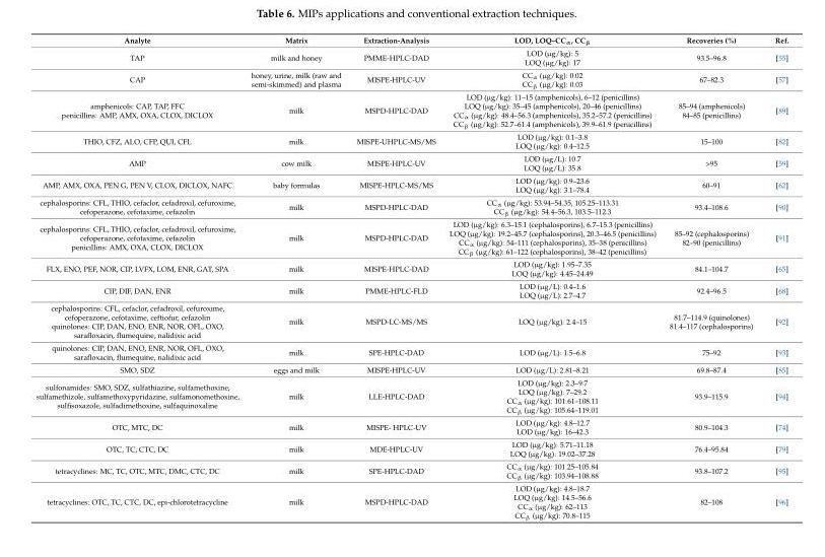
<table><thead><tr><td>Analyte</td><td>Matrix</td><td>Extraction-Analysis</td><td>LOD, LOQ–CC<sub>α</sub>, CC<sub>β</sub></td><td>Recoveries (%)</td><td>Ref.</td></tr></thead><tbody><tr><td>TAP</td><td>milk and honey</td><td>PMME-HPLC-DAD</td><td>LOD (µg/kg): 5 LOQ (µg/kg): 17</td><td>93.5–96.8</td><td>[55]</td></tr><tr><td>CAP</td><td>honey, urine, milk (raw and semi-skimmed) and plasma</td><td>MISPE-HPLC-UV</td><td>CC<sub>α</sub> (µg/kg): 0.02 CC<sub>β</sub> (µg/kg): 0.03</td><td>67–82.3</td><td>[57]</td></tr><tr><td>amphenicols: CAP, TAP, FFC penicillins: AMP, AMX, OXA, CLOX, DICLOX</td><td>milk</td><td>MSPD-HPLC-DAD</td><td>LOD (µg/kg): 11–15 (amphenicols), 6–12 (penicillins) LOQ (µg/kg): 35–45 (amphenicols), 20–46 (penicillins) CC<sub>α</sub> (µg/kg): 48.4–56.3 (amphenicols), 35.2–57.2 (penicillins) CC<sub>β</sub> (µg/kg): 52.7–61.4 (amphenicols), 39.9–61.9 (penicillins)</td><td>85–94 (amphenicols) 84–85 (penicillins)</td><td>[89]</td></tr><tr><td>THIO, CFZ, ALO, CFP, QUI, CFL</td><td>milk</td><td>MISPE-UHPLC-MS/MS</td><td>LOD (µg/kg): 0.1–3.8 LOQ (µg/kg): 0.4–12.5</td><td>15–100</td><td>[82]</td></tr><tr><td>AMP</td><td>cow milk</td><td>MISPE-HPLC-UV</td><td>LOD (µg/L): 10.7 LOQ (µg/L): 35.8</td><td>&gt;95</td><td>[59]</td></tr><tr><td>AMP, AMX, OXA, PEN G, PEN V, CLOX, DICLOX, NAFC</td><td>baby formulas</td><td>MISPE-HPLC-MS/MS</td><td>LOD (µg/kg): 0.9–23.6 LOQ (µg/kg): 3.1–78.4</td><td>60–91</td><td>[62]</td></tr><tr><td>cephalosporins: CFL, THIO, cefaclor, cefadroxil, cefuroxime, cefoperazone, cefotaxime, cefazolin</td><td>milk</td><td>MSPD-HPLC-DAD</td><td>CC<sub>α</sub> (µg/kg): 53.94–54.35, 105.25–113.31 CC<sub>β</sub> (µg/kg): 54.4–56.3, 103.5–112.3</td><td>93.4–108.6</td><td>[90]</td></tr><tr><td>cephalosporins: CFL, THIO, cefaclor, cefadroxil, cefuroxime, cefoperazone, cefotaxime, cefazolin penicillins: AMX, OXA, CLOX, DICLOX</td><td>milk</td><td>MSPD-HPLC-DAD</td><td>LOD (µg/kg): 6.3–15.1 (cephalosporins), 6.7–15.3 (penicillins) LOQ (µg/kg): 19.2–45.7 (cephalosporins), 20.3–46.5 (penicillins) CC<sub>α</sub> (µg/kg): 54–111 (cephalosporins), 35–38 (penicillins) CC<sub>β</sub> (µg/kg): 61–122 (cephalosporins), 38–42 (penicillins)</td><td>85–92 (cephalosporins) 82–90 (penicillins)</td><td>[91]</td></tr><tr><td>FLX, ENO, PEF, NOR, CIP, LVFX, LOM, ENR, GAT, SPA</td><td>milk</td><td>MISPE-HPLC-DAD</td><td>LOD (µg/kg): 1.95–7.35 LOQ (µg/kg): 4.45–24.49</td><td>84.1–104.7</td><td>[65]</td></tr><tr><td>CIP, DIF, DAN, ENR</td><td>milk</td><td>PMME-HPLC-FLD</td><td>LOD (µg/L): 0.4–1.6 LOQ (µg/L): 2.7–4.7</td><td>92.4–96.5</td><td>[68]</td></tr><tr><td>cephalosporins: CFL, cefaclor, cefadroxil, cefuroxime, cefoperazone, cefotaxime, ceftiofur, cefazolin quinolones: CIP, DAN, ENO, ENR, NOR, OFL, OXO, sarafloxacin, flumequine, nalidixic acid</td><td>milk</td><td>MSPD-LC-MS/MS</td><td>LOQ (µg/kg): 2.4–15</td><td>81.7–114.9 (quinolones) 81.4–117 (cephalosporins)</td><td>[92]</td></tr><tr><td>quinolones: CIP, DAN, ENO, ENR, NOR, OFL, OXO, sarafloxacin, flumequine, nalidixic acid</td><td>milk</td><td>SPE-HPLC-DAD</td><td>LOD (µg/L): 1.5–6.8</td><td>75–92</td><td>[93]</td></tr><tr><td>SMO, SDZ</td><td>eggs and milk</td><td>MISPE-HPLC-UV</td><td>LOD (µg/L): 2.81–8.21</td><td>69.8–87.4</td><td>[85]</td></tr><tr><td>sulfonamides: SMO, SDZ, sulfathiazine, sulfamethoxine, sulfamethizole, sulfamethoxypyridazine, sulfamonomethoxine, sulfisoxazole, sulfadimethoxine, sulfaquinoxaline</td><td>milk</td><td>LLE-HPLC-DAD</td><td>LOD (µg/kg): 2.3–9.7 LOQ (µg/kg): 7–29.2 CC<sub>α</sub> (µg/kg): 101.61–108.11 CC<sub>β</sub> (µg/kg): 105.64–119.01</td><td>93.9–115.9</td><td>[94]</td></tr><tr><td>OTC, MTC, DC</td><td>milk</td><td>MISPE- HPLC-UV</td><td>LOD (µg/kg): 4.8–12.7 LOD (µg/kg): 16–42.3</td><td>80.9–104.3</td><td>[74]</td></tr><tr><td>OTC, TC, CTC, DC</td><td>milk</td><td>MDE-HPLC-UV</td><td>LOD (µg/kg): 5.71–11.18 LOQ (µg/kg): 19.02–37.28</td><td>76.4–95.84</td><td>[79]</td></tr><tr><td>tetracyclines: MC, TC, OTC, MTC, DMC, CTC, DC</td><td>milk</td><td>SPE-HPLC-DAD</td><td>CC<sub>α</sub> (µg/kg): 101.25–105.84 CC<sub>β</sub> (µg/kg): 103.94–108.88</td><td>93.8–107.2</td><td>[95]</td></tr><tr><td>tetracyclines: OTC, TC, CTC, DC, epi-chlorotetracycline</td><td>milk</td><td>MSPD-HPLC-DAD</td><td>LOD (µg/kg): 4.8–18.7 LOQ (µg/kg): 14.5–56.6 CC<sub>α</sub> (µg/kg): 62–113 CC<sub>β</sub> (µg/kg): 70.8–115</td><td>82–108</td><td>[96]</td></tr></tbody></table>